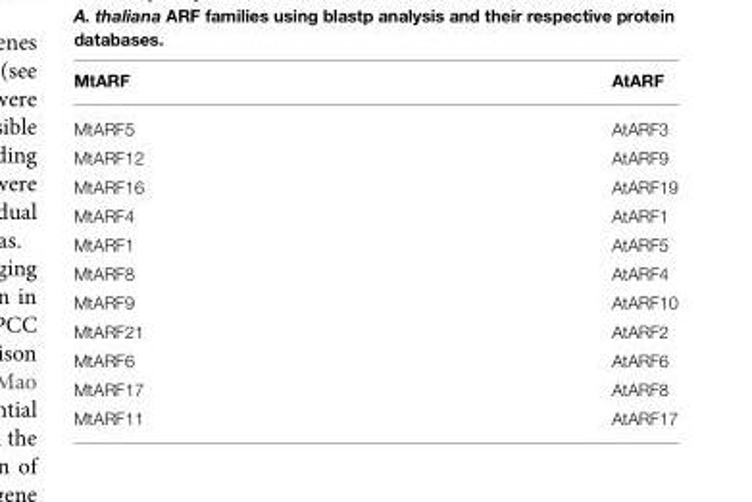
<table><thead><tr><td>MtARF</td><td>AtARF</td></tr></thead><tbody><tr><td>MtARF5</td><td>AtARF3</td></tr><tr><td>MtARF12</td><td>AtARF9</td></tr><tr><td>MtARF16</td><td>AtARF19</td></tr><tr><td>MtARF4</td><td>AtARF1</td></tr><tr><td>MtARF1</td><td>AtARF5</td></tr><tr><td>MtARF8</td><td>AtARF4</td></tr><tr><td>MtARF9</td><td>AtARF10</td></tr><tr><td>MtARF21</td><td>AtARF2</td></tr><tr><td>MtARF6</td><td>AtARF6</td></tr><tr><td>MtARF17</td><td>AtARF8</td></tr><tr><td>MtARF11</td><td>AtARF17</td></tr></tbody></table>